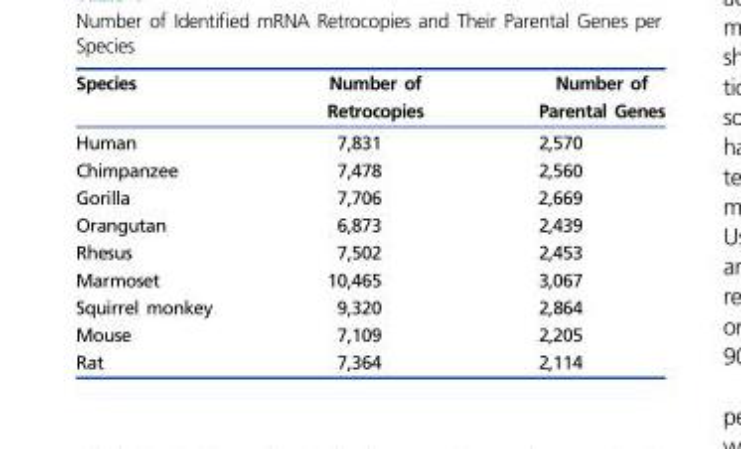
<table><thead><tr><td>Species</td><td>Number of Retrocopies</td><td>Number of Parental Genes</td></tr></thead><tbody><tr><td>Human</td><td>7,831</td><td>2,570</td></tr><tr><td>Chimpanzee</td><td>7,478</td><td>2,560</td></tr><tr><td>Gorilla</td><td>7,706</td><td>2,669</td></tr><tr><td>Orangutan</td><td>6,873</td><td>2,439</td></tr><tr><td>Rhesus</td><td>7,502</td><td>2,453</td></tr><tr><td>Marmoset</td><td>10,465</td><td>3,067</td></tr><tr><td>Squirrel monkey</td><td>9,320</td><td>2,864</td></tr><tr><td>Mouse</td><td>7,109</td><td>2,205</td></tr><tr><td>Rat</td><td>7,364</td><td>2,114</td></tr></tbody></table>